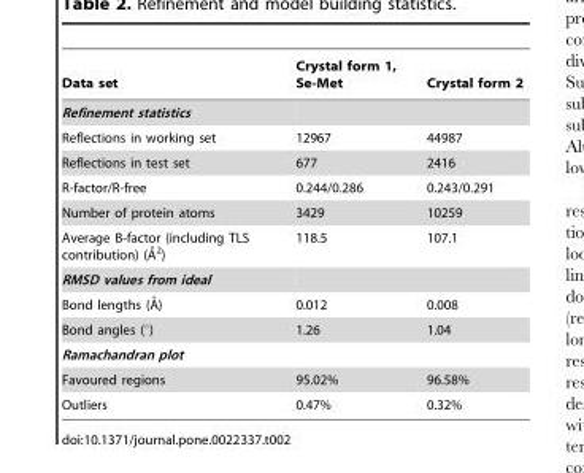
<table><thead><tr><td>Data set</td><td>Crystal form 1, Se-Met</td><td>Crystal form 2</td></tr></thead><tbody><tr><td colspan="3">Refinement statistics</td></tr><tr><td>Reflections in working set</td><td>12967</td><td>44987</td></tr><tr><td>Reflections in test set</td><td>677</td><td>2416</td></tr><tr><td>R-factor/R-free</td><td>0.244/0.286</td><td>0.243/0.291</td></tr><tr><td>Number of protein atoms</td><td>3429</td><td>10259</td></tr><tr><td>Average B-factor (including TLS contribution) (A˚2)</td><td>118.5</td><td>107.1</td></tr><tr><td colspan="3">RMSD values from ideal</td></tr><tr><td>Bond lengths (A˚)</td><td>0.012</td><td>0.008</td></tr><tr><td>Bond angles (°)</td><td>1.26</td><td>1.04</td></tr><tr><td colspan="3">Ramachandran plot</td></tr><tr><td>Favoured regions</td><td>95.02%</td><td>96.58%</td></tr><tr><td>Outliers</td><td>0.47%</td><td>0.32%</td></tr></tbody></table>